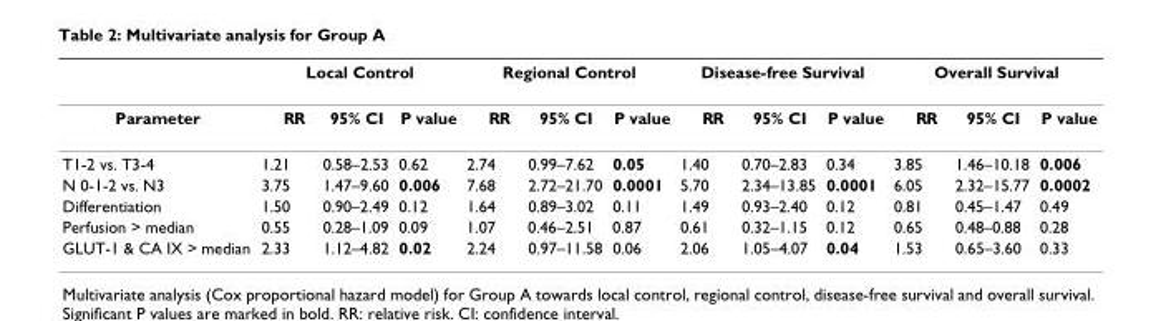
<table><thead><tr><td rowspan="2">Parameter</td><td colspan="3">Local Control</td><td colspan="3">Regional Control</td><td colspan="3">Disease-free Survival</td><td colspan="3">Overall Survival</td></tr><tr><td>RR</td><td>95% CI</td><td>P value</td><td>RR</td><td>95% CI</td><td>P value</td><td>RR</td><td>95% CI</td><td>P value</td><td>RR</td><td>95% CI</td><td>P value</td></tr></thead><tbody><tr><td>T1-2 vs. T3-4</td><td>1.21</td><td>0.58–2.53</td><td>0.62</td><td>2.74</td><td>0.99–7.62</td><td>0.05</td><td>1.40</td><td>0.70–2.83</td><td>0.34</td><td>3.85</td><td>1.46–10.18</td><td>0.006</td></tr><tr><td>N 0-1-2 vs. N3</td><td>3.75</td><td>1.47–9.60</td><td>0.006</td><td>7.68</td><td>2.72–21.70</td><td>0.0001</td><td>5.70</td><td>2.34–13.85</td><td>0.0001</td><td>6.05</td><td>2.32–15.77</td><td>0.0002</td></tr><tr><td>Differentiation</td><td>1.50</td><td>0.90–2.49</td><td>0.12</td><td>1.64</td><td>0.89–3.02</td><td>0.11</td><td>1.49</td><td>0.93–2.40</td><td>0.12</td><td>0.81</td><td>0.45–1.47</td><td>0.49</td></tr><tr><td>Perfusion &gt; median</td><td>0.55</td><td>0.28–1.09</td><td>0.09</td><td>1.07</td><td>0.46–2.51</td><td>0.87</td><td>0.61</td><td>0.32–1.15</td><td>0.12</td><td>0.65</td><td>0.48–0.88</td><td>0.28</td></tr><tr><td>GLUT-1 &amp; CA IX &gt; median</td><td>2.33</td><td>1.12–4.82</td><td>0.02</td><td>2.24</td><td>0.97–11.58</td><td>0.06</td><td>2.06</td><td>1.05–4.07</td><td>0.04</td><td>1.53</td><td>0.65–3.60</td><td>0.33</td></tr></tbody></table>